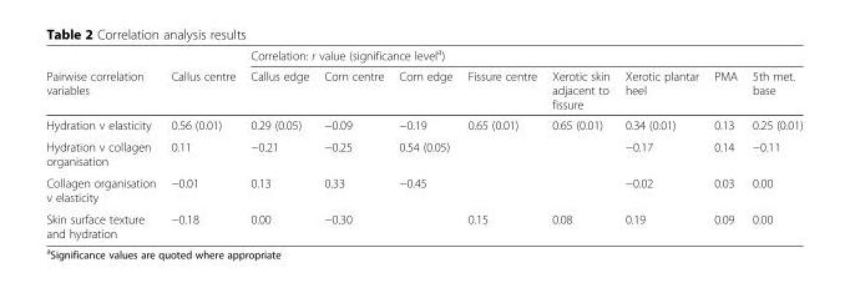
<table><thead><tr><td rowspan="2">Pairwise correlation variables</td><td rowspan="2">Callus centre</td><td colspan="8">Correlation: r value (significance level<sup>a</sup>)</td></tr><tr><td>Callus edge</td><td>Corn centre</td><td>Corn edge</td><td>Fissure centre</td><td>Xerotic skin adjacent to fissure</td><td>Xerotic plantar heel</td><td>PMA</td><td>5th met. base</td></tr></thead><tbody><tr><td>Hydration v elasticity</td><td>0.56 (0.01)</td><td>0.29 (0.05)</td><td>−0.09</td><td>−0.19</td><td>0.65 (0.01)</td><td>0.65 (0.01)</td><td>0.34 (0.01)</td><td>0.13</td><td>0.25 (0.01)</td></tr><tr><td>Hydration v collagen organisation</td><td>0.11</td><td>−0.21</td><td>−0.25</td><td>0.54 (0.05)</td><td></td><td></td><td>−0.17</td><td>0.14</td><td>−0.11</td></tr><tr><td>Collagen organisation v elasticity</td><td>−0.01</td><td>0.13</td><td>0.33</td><td>−0.45</td><td></td><td></td><td>−0.02</td><td>0.03</td><td>0.00</td></tr><tr><td>Skin surface texture and hydration</td><td>−0.18</td><td>0.00</td><td>−0.30</td><td></td><td>0.15</td><td>0.08</td><td>0.19</td><td>0.09</td><td>0.00</td></tr></tbody></table>